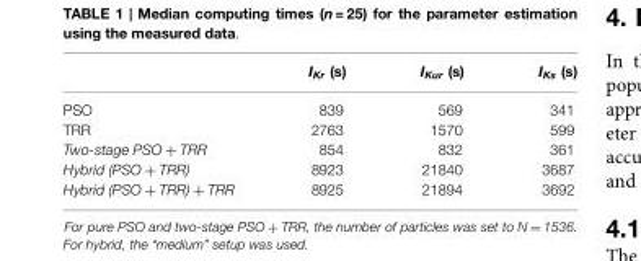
<table><thead><tr><td></td><td>I<sub>Kr</sub> (s)</td><td>I<sub>Kur</sub> (s)</td><td>I<sub>Ks</sub> (s)</td></tr></thead><tbody><tr><td>PSO</td><td>839</td><td>569</td><td>341</td></tr><tr><td>TRR</td><td>2763</td><td>1570</td><td>599</td></tr><tr><td>Two-stage PSO + TRR</td><td>854</td><td>832</td><td>361</td></tr><tr><td>Hybrid (PSO + TRR)</td><td>8923</td><td>21840</td><td>3687</td></tr><tr><td>Hybrid (PSO + TRR) + TRR</td><td>8925</td><td>21894</td><td>3692</td></tr></tbody></table>